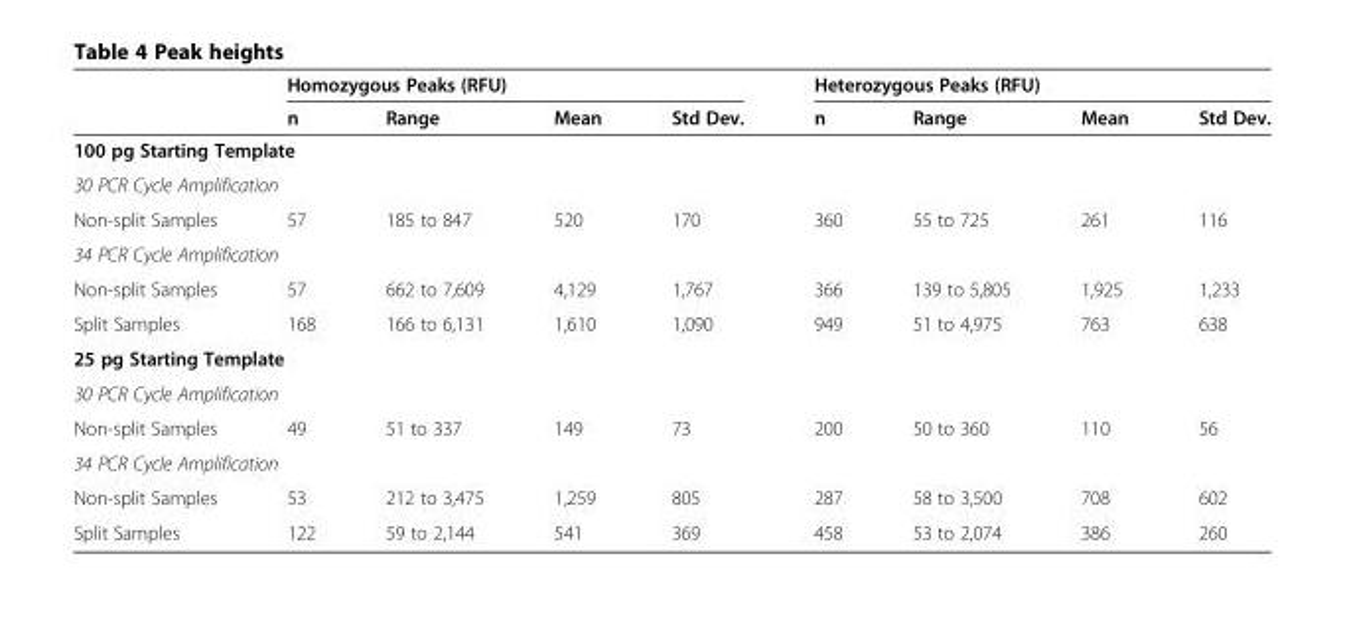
<table><thead><tr><td rowspan="2"></td><td colspan="4">Homozygous Peaks (RFU)</td><td colspan="4">Heterozygous Peaks (RFU)</td></tr><tr><td>n</td><td>Range</td><td>Mean</td><td>Std Dev.</td><td>n</td><td>Range</td><td>Mean</td><td>Std Dev.</td></tr></thead><tbody><tr><td colspan="9">100 pg Starting Template</td></tr><tr><td colspan="9">30 PCR Cycle Amplification</td></tr><tr><td>Non-split Samples</td><td>57</td><td>185 to 847</td><td>520</td><td>170</td><td>360</td><td>55 to 725</td><td>261</td><td>116</td></tr><tr><td colspan="9">34 PCR Cycle Amplification</td></tr><tr><td>Non-split Samples</td><td>57</td><td>662 to 7,609</td><td>4,129</td><td>1,767</td><td>366</td><td>139 to 5,805</td><td>1,925</td><td>1,233</td></tr><tr><td>Split Samples</td><td>168</td><td>166 to 6,131</td><td>1,610</td><td>1,090</td><td>949</td><td>51 to 4,975</td><td>763</td><td>638</td></tr><tr><td colspan="9">25 pg Starting Template</td></tr><tr><td colspan="9">30 PCR Cycle Amplification</td></tr><tr><td>Non-split Samples</td><td>49</td><td>51 to 337</td><td>149</td><td>73</td><td>200</td><td>50 to 360</td><td>110</td><td>56</td></tr><tr><td colspan="9">34 PCR Cycle Amplification</td></tr><tr><td>Non-split Samples</td><td>53</td><td>212 to 3,475</td><td>1,259</td><td>805</td><td>287</td><td>58 to 3,500</td><td>708</td><td>602</td></tr><tr><td>Split Samples</td><td>122</td><td>59 to 2,144</td><td>541</td><td>369</td><td>458</td><td>53 to 2,074</td><td>386</td><td>260</td></tr></tbody></table>